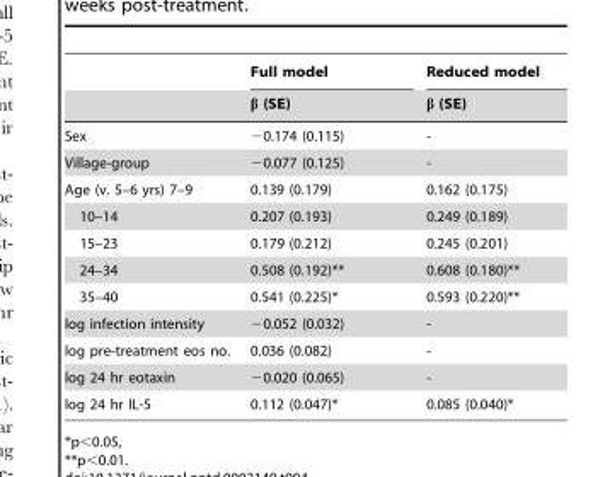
<table><thead><tr><td rowspan="2"></td><td rowspan="2">Full model β (SE)</td><td rowspan="2">Reduced model β (SE)</td></tr><tr></tr></thead><tbody><tr><td>Sex</td><td>−0.174 (0.115)</td><td>-</td></tr><tr><td>Village-group</td><td>−0.077 (0.125)</td><td>-</td></tr><tr><td>Age (v. 5–6 yrs) 7–9</td><td>0.139 (0.179)</td><td>0.162 (0.175)</td></tr><tr><td>10–14</td><td>0.207 (0.193)</td><td>0.249 (0.189)</td></tr><tr><td>15–23</td><td>0.179 (0.212)</td><td>0.245 (0.201)</td></tr><tr><td>24–34</td><td>0.508 (0.192)**</td><td>0.608 (0.180)**</td></tr><tr><td>35–40</td><td>0.541 (0.225)*</td><td>0.593 (0.220)**</td></tr><tr><td>log infection intensity</td><td>−0.052 (0.032)</td><td>-</td></tr><tr><td>log pre-treatment eos no.</td><td>0.036 (0.082)</td><td>-</td></tr><tr><td>log 24 hr eotaxin</td><td>−0.020 (0.065)</td><td>-</td></tr><tr><td>log 24 hr IL-5</td><td>0.112 (0.047)*</td><td>0.085 (0.040)*</td></tr></tbody></table>